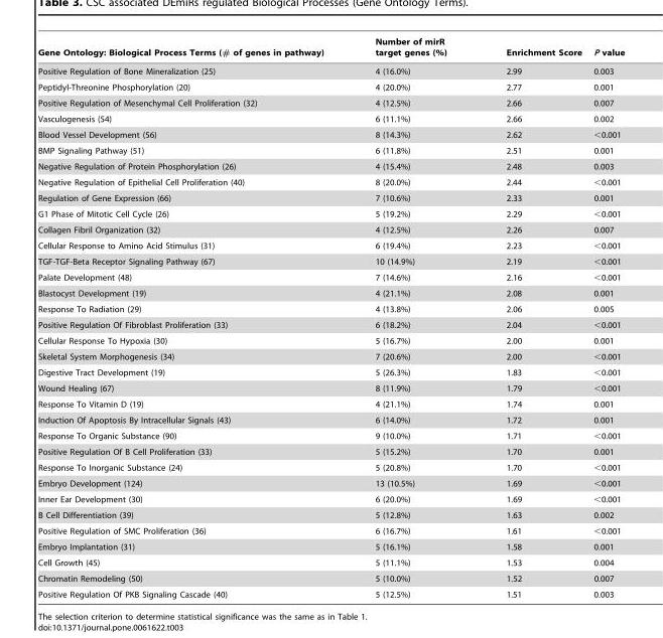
<table><thead><tr><td>Gene Ontology: Biological Process Terms (# of genes in pathway)</td><td>Number of mirR target genes (%)</td><td>Enrichment Score</td><td>P value</td></tr></thead><tbody><tr><td>Positive Regulation of Bone Mineralization (25)</td><td>4 (16.0%)</td><td>2.99</td><td>0.003</td></tr><tr><td>Peptidyl-Threonine Phosphorylation (20)</td><td>4 (20.0%)</td><td>2.77</td><td>0.001</td></tr><tr><td>Positive Regulation of Mesenchymal Cell Proliferation (32)</td><td>4 (12.5%)</td><td>2.66</td><td>0.007</td></tr><tr><td>Vasculogenesis (54)</td><td>6 (11.1%)</td><td>2.66</td><td>0.002</td></tr><tr><td>Blood Vessel Development (56)</td><td>8 (14.3%)</td><td>2.62</td><td>&lt;0.001</td></tr><tr><td>BMP Signaling Pathway (51)</td><td>6 (11.8%)</td><td>2.51</td><td>0.001</td></tr><tr><td>Negative Regulation of Protein Phosphorylation (26)</td><td>4 (15.4%)</td><td>2.48</td><td>0.003</td></tr><tr><td>Negative Regulation of Epithelial Cell Proliferation (40)</td><td>8 (20.0%)</td><td>2.44</td><td>&lt;0.001</td></tr><tr><td>Regulation of Gene Expression (66)</td><td>7 (10.6%)</td><td>2.33</td><td>0.001</td></tr><tr><td>G1 Phase of Mitotic Cell Cycle (26)</td><td>5 (19.2%)</td><td>2.29</td><td>&lt;0.001</td></tr><tr><td>Collagen Fibril Organization (32)</td><td>4 (12.5%)</td><td>2.26</td><td>0.007</td></tr><tr><td>Cellular Response to Amino Acid Stimulus (31)</td><td>6 (19.4%)</td><td>2.23</td><td>&lt;0.001</td></tr><tr><td>TGF-TGF-Beta Receptor Signaling Pathway (67)</td><td>10 (14.9%)</td><td>2.19</td><td>&lt;0.001</td></tr><tr><td>Palate Development (48)</td><td>7 (14.6%)</td><td>2.16</td><td>&lt;0.001</td></tr><tr><td>Blastocyst Development (19)</td><td>4 (21.1%)</td><td>2.08</td><td>0.001</td></tr><tr><td>Response To Radiation (29)</td><td>4 (13.8%)</td><td>2.06</td><td>0.005</td></tr><tr><td>Positive Regulation Of Fibroblast Proliferation (33)</td><td>6 (18.2%)</td><td>2.04</td><td>&lt;0.001</td></tr><tr><td>Cellular Response To Hypoxia (30)</td><td>5 (16.7%)</td><td>2.00</td><td>0.001</td></tr><tr><td>Skeletal System Morphogenesis (34)</td><td>7 (20.6%)</td><td>2.00</td><td>&lt;0.001</td></tr><tr><td>Digestive Tract Development (19)</td><td>5 (26.3%)</td><td>1.83</td><td>&lt;0.001</td></tr><tr><td>Wound Healing (67)</td><td>8 (11.9%)</td><td>1.79</td><td>&lt;0.001</td></tr><tr><td>Response To Vitamin D (19)</td><td>4 (21.1%)</td><td>1.74</td><td>0.001</td></tr><tr><td>Induction Of Apoptosis By Intracellular Signals (43)</td><td>6 (14.0%)</td><td>1.72</td><td>0.001</td></tr><tr><td>Response To Organic Substance (90)</td><td>9 (10.0%)</td><td>1.71</td><td>&lt;0.001</td></tr><tr><td>Positive Regulation Of B Cell Proliferation (33)</td><td>5 (15.2%)</td><td>1.70</td><td>0.001</td></tr><tr><td>Response To Inorganic Substance (24)</td><td>5 (20.8%)</td><td>1.70</td><td>&lt;0.001</td></tr><tr><td>Embryo Development (124)</td><td>13 (10.5%)</td><td>1.69</td><td>&lt;0.001</td></tr><tr><td>Inner Ear Development (30)</td><td>6 (20.0%)</td><td>1.69</td><td>&lt;0.001</td></tr><tr><td>B Cell Differentiation (39)</td><td>5 (12.8%)</td><td>1.63</td><td>0.002</td></tr><tr><td>Positive Regulation of SMC Proliferation (36)</td><td>6 (16.7%)</td><td>1.61</td><td>&lt;0.001</td></tr><tr><td>Embryo Implantation (31)</td><td>5 (16.1%)</td><td>1.58</td><td>0.001</td></tr><tr><td>Cell Growth (45)</td><td>5 (11.1%)</td><td>1.53</td><td>0.004</td></tr><tr><td>Chromatin Remodeling (50)</td><td>5 (10.0%)</td><td>1.52</td><td>0.007</td></tr><tr><td>Positive Regulation Of PKB Signaling Cascade (40)</td><td>5 (12.5%)</td><td>1.51</td><td>0.003</td></tr></tbody></table>